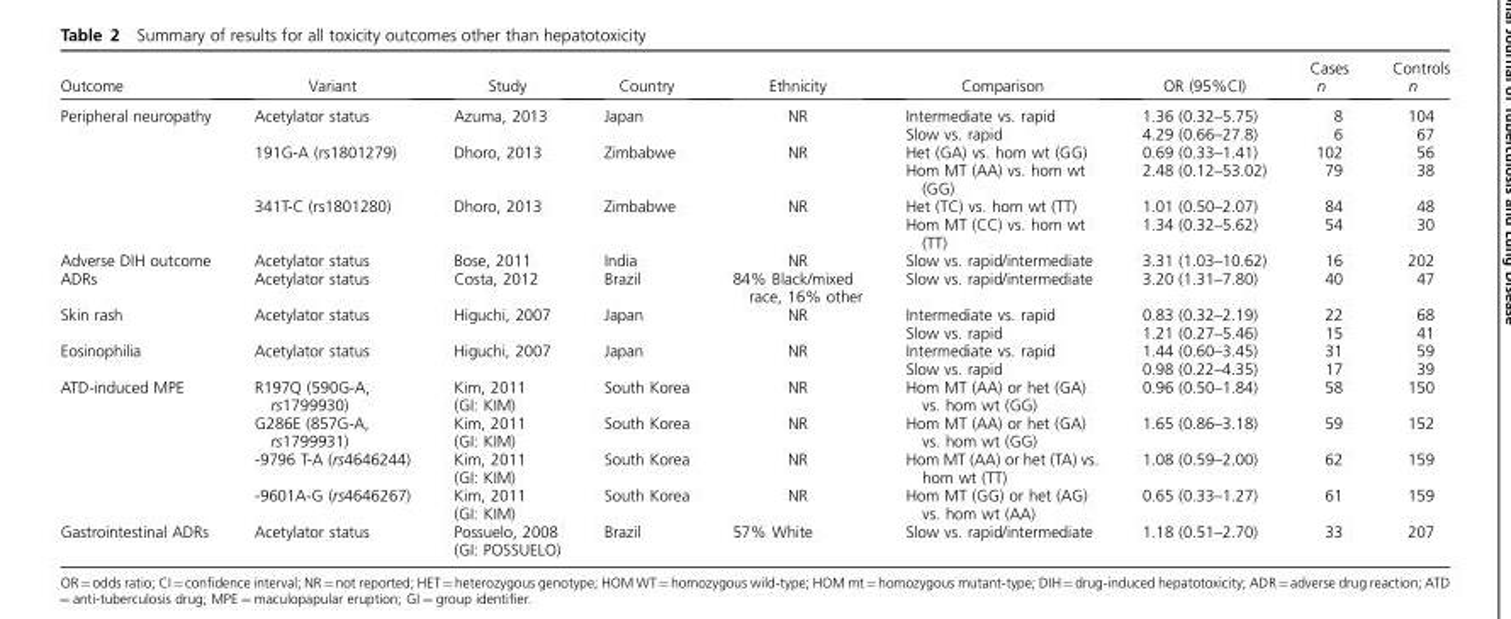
<table><thead><tr><td>Outcome</td><td>Variant</td><td>Study</td><td>Country</td><td>Ethnicity</td><td>Comparison</td><td>OR (95%CI)</td><td>Cases n</td><td>Controls n</td></tr></thead><tbody><tr><td rowspan="6">Peripheral neuropathy</td><td rowspan="2">Acetylator status</td><td rowspan="2">Azuma, 2013</td><td rowspan="2">Japan</td><td rowspan="2">NR</td><td>Intermediate vs. rapid</td><td>1.36 (0.32–5.75)</td><td>8</td><td>104</td></tr><tr><td>Slow vs. rapid</td><td>4.29 (0.66–27.8)</td><td>6</td><td>67</td></tr><tr><td rowspan="2">191G-A (rs1801279)</td><td rowspan="2">Dhoro, 2013</td><td rowspan="2">Zimbabwe</td><td rowspan="2">NR</td><td>Het (GA) vs. hom wt (GG)</td><td>0.69 (0.33–1.41)</td><td>102</td><td>56</td></tr><tr><td>Hom MT (AA) vs. hom wt (GG)</td><td>2.48 (0.12–53.02)</td><td>79</td><td>38</td></tr><tr><td rowspan="2">341T-C (rs1801280)</td><td rowspan="2">Dhoro, 2013</td><td rowspan="2">Zimbabwe</td><td rowspan="2">NR</td><td>Het (TC) vs. hom wt (TT)</td><td>1.01 (0.50–2.07)</td><td>84</td><td>48</td></tr><tr><td>Hom MT (CC) vs. hom wt (TT)</td><td>1.34 (0.32–5.62)</td><td>54</td><td>30</td></tr><tr><td>Adverse DIH outcome</td><td>Acetylator status</td><td>Bose, 2011</td><td>India</td><td>NR</td><td>Slow vs. rapid/intermediate</td><td>3.31 (1.03–10.62)</td><td>16</td><td>202</td></tr><tr><td>ADRs</td><td>Acetylator status</td><td>Costa, 2012</td><td>Brazil</td><td>84% Black/mixed race, 16% other</td><td>Slow vs. rapid/intermediate</td><td>3.20 (1.31–7.80)</td><td>40</td><td>47</td></tr><tr><td rowspan="2">Skin rash</td><td rowspan="2">Acetylator status</td><td rowspan="2">Higuchi, 2007</td><td rowspan="2">Japan</td><td rowspan="2">NR</td><td>Intermediate vs. rapid</td><td>0.83 (0.32–2.19)</td><td>22</td><td>68</td></tr><tr><td>Slow vs. rapid</td><td>1.21 (0.27–5.46)</td><td>15</td><td>41</td></tr><tr><td rowspan="2">Eosinophilia</td><td rowspan="2">Acetylator status</td><td rowspan="2">Higuchi, 2007</td><td rowspan="2">Japan</td><td rowspan="2">NR</td><td>Intermediate vs. rapid</td><td>1.44 (0.60–3.45)</td><td>31</td><td>59</td></tr><tr><td>Slow vs. rapid</td><td>0.98 (0.22–4.35)</td><td>17</td><td>39</td></tr><tr><td rowspan="4">ATD-induced MPE</td><td>R197Q (590G-A, rs1799930)</td><td>Kim, 2011 (GI: KIM)</td><td>South Korea</td><td>NR</td><td>Hom MT (AA) or het (GA) vs. hom wt (GG)</td><td>0.96 (0.50–1.84)</td><td>58</td><td>150</td></tr><tr><td>G286E (857G-A, rs1799931)</td><td>Kim, 2011 (GI: KIM)</td><td>South Korea</td><td>NR</td><td>Hom MT (AA) or het (GA) vs. hom wt (GG)</td><td>1.65 (0.86–3.18)</td><td>59</td><td>152</td></tr><tr><td>-9796 T-A (rs4646244)</td><td>Kim, 2011 (GI: KIM)</td><td>South Korea</td><td>NR</td><td>Hom MT (AA) or het (TA) vs. hom wt (TT)</td><td>1.08 (0.59–2.00)</td><td>62</td><td>159</td></tr><tr><td>-9601A-G (rs4646267)</td><td>Kim, 2011 (GI: KIM)</td><td>South Korea</td><td>NR</td><td>Hom MT (GG) or het (AG) vs. hom wt (AA)</td><td>0.65 (0.33–1.27)</td><td>61</td><td>159</td></tr><tr><td>Gastrointestinal ADRs</td><td>Acetylator status</td><td>Possuelo, 2008 (GI: POSSUELO)</td><td>Brazil</td><td>57% White</td><td>Slow vs. rapid/intermediate</td><td>1.18 (0.51–2.70)</td><td>33</td><td>207</td></tr></tbody></table>